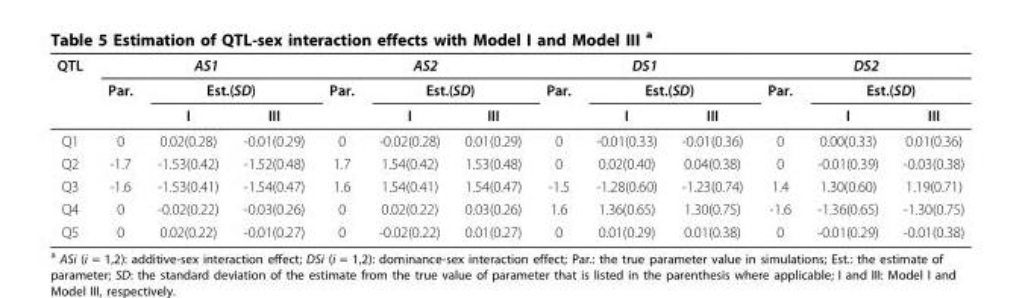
<table><thead><tr><td rowspan="3">QTL</td><td colspan="3">AS1</td><td colspan="3">AS2</td><td colspan="3">DS1</td><td colspan="3">DS2</td></tr><tr><td rowspan="2">Par.</td><td colspan="2">Est.(SD)</td><td rowspan="2">Par.</td><td colspan="2">Est.(SD)</td><td rowspan="2">Par.</td><td colspan="2">Est.(SD)</td><td rowspan="2">Par.</td><td colspan="2">Est.(SD)</td></tr><tr><td>I</td><td>III</td><td>I</td><td>III</td><td>I</td><td>III</td><td>I</td><td>III</td></tr></thead><tbody><tr><td>Q1</td><td>0</td><td>0.02(0.28)</td><td>-0.01(0.29)</td><td>0</td><td>-0.02(0.28)</td><td>0.01(0.29)</td><td>0</td><td>-0.01(0.33)</td><td>-0.01(0.36)</td><td>0</td><td>0.00(0.33)</td><td>0.01(0.36)</td></tr><tr><td>Q2</td><td>-1.7</td><td>-1.53(0.42)</td><td>-1.52(0.48)</td><td>1.7</td><td>1.54(0.42)</td><td>1.53(0.48)</td><td>0</td><td>0.02(0.40)</td><td>0.04(0.38)</td><td>0</td><td>-0.01(0.39)</td><td>-0.03(0.38)</td></tr><tr><td>Q3</td><td>-1.6</td><td>-1.53(0.41)</td><td>-1.54(0.47)</td><td>1.6</td><td>1.54(0.41)</td><td>1.54(0.47)</td><td>-1.5</td><td>-1.28(0.60)</td><td>-1.23(0.74)</td><td>1.4</td><td>1.30(0.60)</td><td>1.19(0.71)</td></tr><tr><td>Q4</td><td>0</td><td>-0.02(0.22)</td><td>-0.03(0.26)</td><td>0</td><td>0.02(0.22)</td><td>0.03(0.26)</td><td>1.6</td><td>1.36(0.65)</td><td>1.30(0.75)</td><td>-1.6</td><td>-1.36(0.65)</td><td>-1.30(0.75)</td></tr><tr><td>Q5</td><td>0</td><td>0.02(0.22)</td><td>-0.01(0.27)</td><td>0</td><td>-0.02(0.22)</td><td>0.01(0.27)</td><td>0</td><td>0.01(0.29)</td><td>0.01(0.38)</td><td>0</td><td>-0.01(0.29)</td><td>-0.01(0.38)</td></tr></tbody></table>